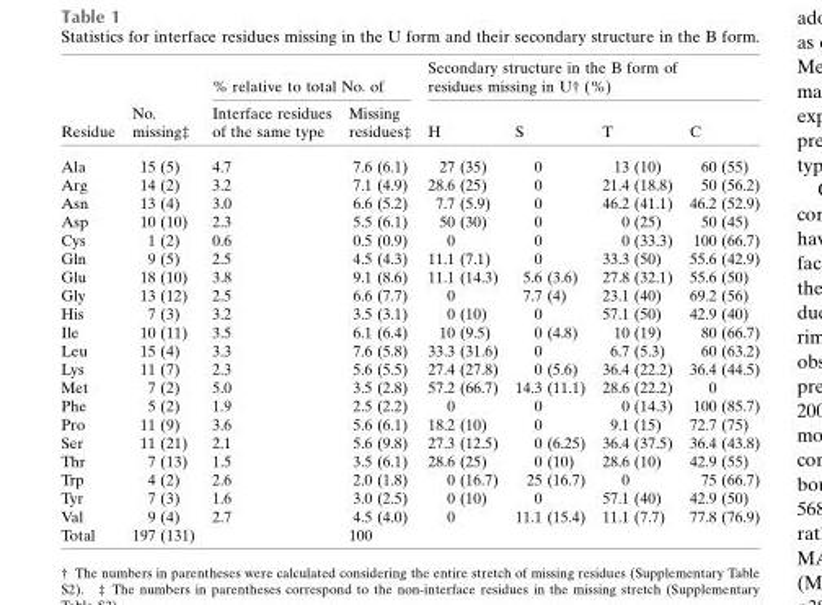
<table><thead><tr><td rowspan="2">Residue</td><td rowspan="2">No. missing‡</td><td colspan="2">% relative to total No. of</td><td colspan="4">Secondary structure in the B form of residues missing in U† (%)</td></tr><tr><td>Interface residues of the same type</td><td>Missing residues‡</td><td>H</td><td>S</td><td>T</td><td>C</td></tr></thead><tbody><tr><td>Ala</td><td>15 (5)</td><td>4.7</td><td>7.6 (6.1)</td><td>27 (35)</td><td>0</td><td>13 (10)</td><td>60 (55)</td></tr><tr><td>Arg</td><td>14 (2)</td><td>3.2</td><td>7.1 (4.9)</td><td>28.6 (25)</td><td>0</td><td>21.4 (18.8)</td><td>50 (56.2)</td></tr><tr><td>Asn</td><td>13 (4)</td><td>3.0</td><td>6.6 (5.2)</td><td>7.7 (5.9)</td><td>0</td><td>46.2 (41.1)</td><td>46.2 (52.9)</td></tr><tr><td>Asp</td><td>10 (10)</td><td>2.3</td><td>5.5 (6.1)</td><td>50 (30)</td><td>0</td><td>0 (25)</td><td>50 (45)</td></tr><tr><td>Cys</td><td>1 (2)</td><td>0.6</td><td>0.5 (0.9)</td><td>0</td><td>0</td><td>0 (33.3)</td><td>100 (66.7)</td></tr><tr><td>Gln</td><td>9 (5)</td><td>2.5</td><td>4.5 (4.3)</td><td>11.1 (7.1)</td><td>0</td><td>33.3 (50)</td><td>55.6 (42.9)</td></tr><tr><td>Glu</td><td>18 (10)</td><td>3.8</td><td>9.1 (8.6)</td><td>11.1 (14.3)</td><td>5.6 (3.6)</td><td>27.8 (32.1)</td><td>55.6 (50)</td></tr><tr><td>Gly</td><td>13 (12)</td><td>2.5</td><td>6.6 (7.7)</td><td>0</td><td>7.7 (4)</td><td>23.1 (40)</td><td>69.2 (56)</td></tr><tr><td>His</td><td>7 (3)</td><td>3.2</td><td>3.5 (3.1)</td><td>0 (10)</td><td>0</td><td>57.1 (50)</td><td>42.9 (40)</td></tr><tr><td>Ile</td><td>10 (11)</td><td>3.5</td><td>6.1 (6.4)</td><td>10 (9.5)</td><td>0 (4.8)</td><td>10 (19)</td><td>80 (66.7)</td></tr><tr><td>Leu</td><td>15 (4)</td><td>3.3</td><td>7.6 (5.8)</td><td>33.3 (31.6)</td><td>0</td><td>6.7 (5.3)</td><td>60 (63.2)</td></tr><tr><td>Lys</td><td>11 (7)</td><td>2.3</td><td>5.6 (5.5)</td><td>27.4 (27.8)</td><td>0 (5.6)</td><td>36.4 (22.2)</td><td>36.4 (44.5)</td></tr><tr><td>Met</td><td>7 (2)</td><td>5.0</td><td>3.5 (2.8)</td><td>57.2 (66.7)</td><td>14.3 (11.1)</td><td>28.6 (22.2)</td><td>0</td></tr><tr><td>Phe</td><td>5 (2)</td><td>1.9</td><td>2.5 (2.2)</td><td>0</td><td>0</td><td>0 (14.3)</td><td>100 (85.7)</td></tr><tr><td>Pro</td><td>11 (9)</td><td>3.6</td><td>5.6 (6.1)</td><td>18.2 (10)</td><td>0</td><td>9.1 (15)</td><td>72.7 (75)</td></tr><tr><td>Ser</td><td>11 (21)</td><td>2.1</td><td>5.6 (9.8)</td><td>27.3 (12.5)</td><td>0 (6.25)</td><td>36.4 (37.5)</td><td>36.4 (43.8)</td></tr><tr><td>Thr</td><td>7 (13)</td><td>1.5</td><td>3.5 (6.1)</td><td>28.6 (25)</td><td>0 (10)</td><td>28.6 (10)</td><td>42.9 (55)</td></tr><tr><td>Trp</td><td>4 (2)</td><td>2.6</td><td>2.0 (1.8)</td><td>0 (16.7)</td><td>25 (16.7)</td><td>0</td><td>75 (66.7)</td></tr><tr><td>Tyr</td><td>7 (3)</td><td>1.6</td><td>3.0 (2.5)</td><td>0 (10)</td><td>0</td><td>57.1 (40)</td><td>42.9 (50)</td></tr><tr><td>Val</td><td>9 (4)</td><td>2.7</td><td>4.5 (4.0)</td><td>0</td><td>11.1 (15.4)</td><td>11.1 (7.7)</td><td>77.8 (76.9)</td></tr><tr><td>Total</td><td>197 (131)</td><td></td><td>100</td><td></td><td></td><td></td><td></td></tr></tbody></table>